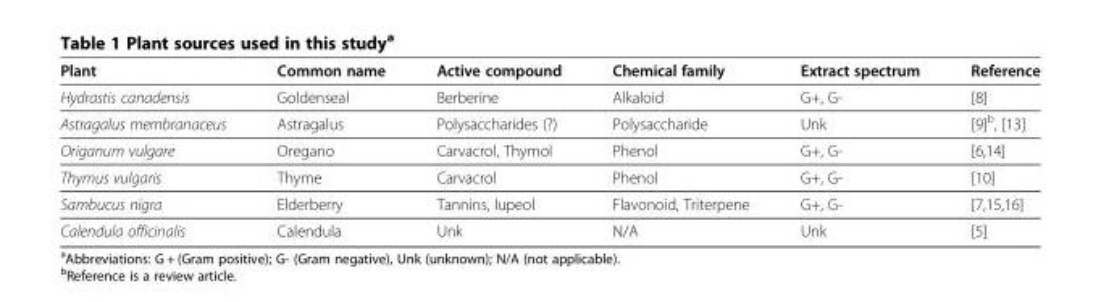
<table><thead><tr><td>Plant</td><td>Common name</td><td>Active compound</td><td>Chemical family</td><td>Extract spectrum</td><td>Reference</td></tr></thead><tbody><tr><td>Hydrastis canadensis</td><td>Goldenseal</td><td>Berberine</td><td>Alkaloid</td><td>G+, G-</td><td>[8]</td></tr><tr><td>Astragalus membranaceus</td><td>Astragalus</td><td>Polysaccharides (?)</td><td>Polysaccharide</td><td>Unk</td><td>[9]<sup>b</sup>, [13]</td></tr><tr><td>Origanum vulgare</td><td>Oregano</td><td>Carvacrol, Thymol</td><td>Phenol</td><td>G+, G-</td><td>[6,14]</td></tr><tr><td>Thymus vulgaris</td><td>Thyme</td><td>Carvacrol</td><td>Phenol</td><td>G+, G-</td><td>[10]</td></tr><tr><td>Sambucus nigra</td><td>Elderberry</td><td>Tannins, lupeol</td><td>Flavonoid, Triterpene</td><td>G+, G-</td><td>[7,15,16]</td></tr><tr><td>Calendula officinalis</td><td>Calendula</td><td>Unk</td><td>N/A</td><td>Unk</td><td>[5]</td></tr></tbody></table>